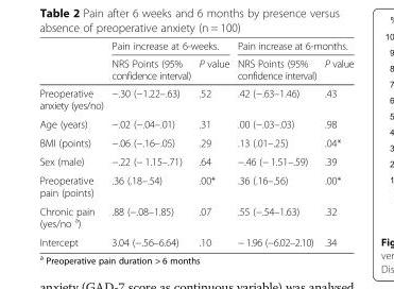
<table><thead><tr><td rowspan="2"></td><td colspan="2">Pain increase at 6-weeks.</td><td colspan="2">Pain increase at 6-months.</td></tr><tr><td>NRS Points (95% confidence interval)</td><td>P value</td><td>NRS Points (95% confidence interval)</td><td>P value</td></tr></thead><tbody><tr><td>Preoperative anxiety (yes/no)</td><td>−.30 (−1.22–.63)</td><td>.52</td><td>.42 (−.63–1.46)</td><td>.43</td></tr><tr><td>Age (years)</td><td>−.02 (−.04–.01)</td><td>.31</td><td>.00 (−.03–.03)</td><td>.98</td></tr><tr><td>BMI (points)</td><td>−.06 (−.16–.05)</td><td>.29</td><td>.13 (.01–.25)</td><td>.04*</td></tr><tr><td>Sex (male)</td><td>−.22 (− 1.15–.71)</td><td>.64</td><td>−.46 (− 1.51–.59)</td><td>.39</td></tr><tr><td>Preoperative pain (points)</td><td>.36 (.18–.54)</td><td>.00*</td><td>.36 (.16–.56)</td><td>.00*</td></tr><tr><td>Chronic pain (yes/no <sup>a</sup>)</td><td>.88 (−.08–1.85)</td><td>.07</td><td>.55 (−.54–1.63)</td><td>.32</td></tr><tr><td>Intercept</td><td>3.04 (−.56–6.64)</td><td>.10</td><td>− 1.96 (−6.02–2.10)</td><td>.34</td></tr></tbody></table>